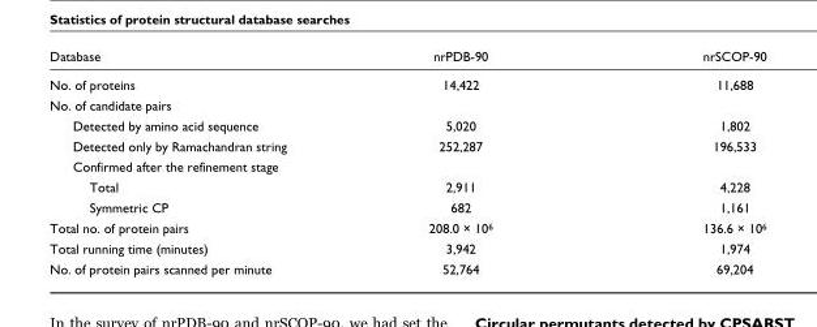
<table><thead><tr><td>Database</td><td>nrPDB-90</td><td>nrSCOP-90</td></tr></thead><tbody><tr><td>No. of proteins</td><td>14,422</td><td>11,688</td></tr><tr><td colspan="3">No. of candidate pairs</td></tr><tr><td>Detected by amino acid sequence</td><td>5,020</td><td>1,802</td></tr><tr><td>Detected only by Ramachandran string</td><td>252,287</td><td>196,533</td></tr><tr><td colspan="3">Confirmed after the refinement stage</td></tr><tr><td>Total</td><td>2,911</td><td>4,228</td></tr><tr><td>Symmetric CP</td><td>682</td><td>1,161</td></tr><tr><td>Total no. of protein pairs</td><td>208.0 × 10<sup>6</sup></td><td>136.6 × 10<sup>6</sup></td></tr><tr><td>Total running time (minutes)</td><td>3,942</td><td>1,974</td></tr><tr><td>No. of protein pairs scanned per minute</td><td>52,764</td><td>69,204</td></tr></tbody></table>